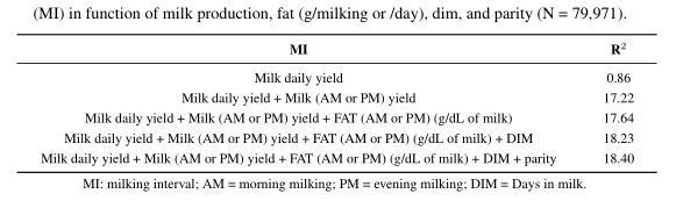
<table><thead><tr><td>MI</td><td>R<sup>2</sup></td></tr></thead><tbody><tr><td>Milk daily yield</td><td>0.86</td></tr><tr><td>Milk daily yield + Milk (AM or PM) yield</td><td>17.22</td></tr><tr><td>Milk daily yield + Milk (AM or PM) yield + FAT (AM or PM) (g/dL of milk)</td><td>17.64</td></tr><tr><td>Milk daily yield + Milk (AM or PM) yield + FAT (AM or PM) (g/dL of milk) + DIM</td><td>18.23</td></tr><tr><td>Milk daily yield + Milk (AM or PM) yield + FAT (AM or PM) (g/dL of milk) + DIM + parity</td><td>18.40</td></tr></tbody></table>